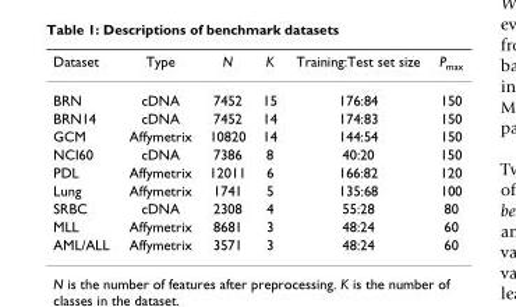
<table><thead><tr><td>Dataset</td><td>Type</td><td>N</td><td>K</td><td>Training:Test set size</td><td>Pmax</td></tr></thead><tbody><tr><td>BRN</td><td>cDNA</td><td>7452</td><td>15</td><td>176:84</td><td>150</td></tr><tr><td>BRN14</td><td>cDNA</td><td>7452</td><td>14</td><td>174:83</td><td>150</td></tr><tr><td>GCM</td><td>Affymetrix</td><td>10820</td><td>14</td><td>144:54</td><td>150</td></tr><tr><td>NCI60</td><td>cDNA</td><td>7386</td><td>8</td><td>40:20</td><td>150</td></tr><tr><td>PDL</td><td>Affymetrix</td><td>12011</td><td>6</td><td>166:82</td><td>120</td></tr><tr><td>Lung</td><td>Affymetrix</td><td>1741</td><td>5</td><td>135:68</td><td>100</td></tr><tr><td>SRBC</td><td>cDNA</td><td>2308</td><td>4</td><td>55:28</td><td>80</td></tr><tr><td>MLL</td><td>Affymetrix</td><td>8681</td><td>3</td><td>48:24</td><td>60</td></tr><tr><td>AML/ALL</td><td>Affymetrix</td><td>3571</td><td>3</td><td>48:24</td><td>60</td></tr></tbody></table>